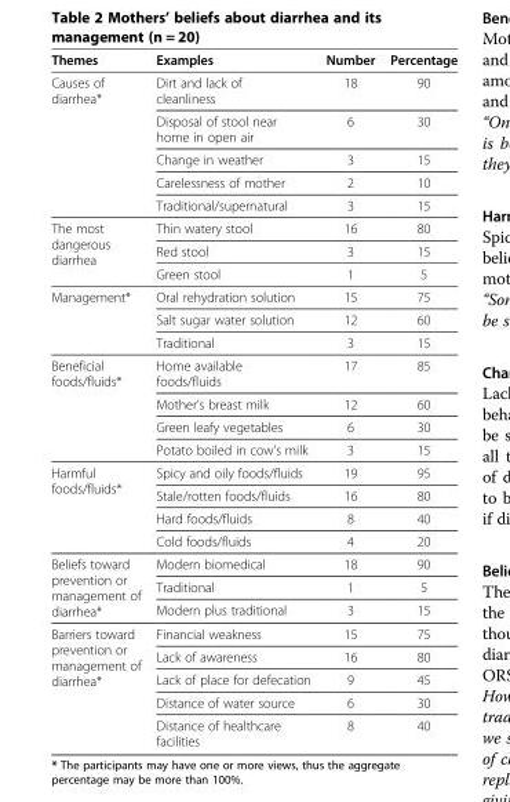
<table><thead><tr><td>Themes</td><td>Examples</td><td>Number</td><td>Percentage</td></tr></thead><tbody><tr><td rowspan="5">Causes of diarrhea*</td><td>Dirt and lack of cleanliness</td><td>18</td><td>90</td></tr><tr><td>Disposal of stool near home in open air</td><td>6</td><td>30</td></tr><tr><td>Change in weather</td><td>3</td><td>15</td></tr><tr><td>Carelessness of mother</td><td>2</td><td>10</td></tr><tr><td>Traditional/supernatural</td><td>3</td><td>15</td></tr><tr><td rowspan="3">The most dangerous diarrhea</td><td>Thin watery stool</td><td>16</td><td>80</td></tr><tr><td>Red stool</td><td>3</td><td>15</td></tr><tr><td>Green stool</td><td>1</td><td>5</td></tr><tr><td rowspan="3">Management*</td><td>Oral rehydration solution</td><td>15</td><td>75</td></tr><tr><td>Salt sugar water solution</td><td>12</td><td>60</td></tr><tr><td>Traditional</td><td>3</td><td>15</td></tr><tr><td rowspan="4">Beneficial foods/fluids*</td><td>Home available foods/fluids</td><td>17</td><td>85</td></tr><tr><td>Mother’s breast milk</td><td>12</td><td>60</td></tr><tr><td>Green leafy vegetables</td><td>6</td><td>30</td></tr><tr><td>Potato boiled in cow’s milk</td><td>3</td><td>15</td></tr><tr><td rowspan="4">Harmful foods/fluids*</td><td>Spicy and oily foods/fluids</td><td>19</td><td>95</td></tr><tr><td>Stale/rotten foods/fluids</td><td>16</td><td>80</td></tr><tr><td>Hard foods/fluids</td><td>8</td><td>40</td></tr><tr><td>Cold foods/fluids</td><td>4</td><td>20</td></tr><tr><td rowspan="3">Beliefs toward prevention or management of diarrhea*</td><td>Modern biomedical</td><td>18</td><td>90</td></tr><tr><td>Traditional</td><td>1</td><td>5</td></tr><tr><td>Modern plus traditional</td><td>3</td><td>15</td></tr><tr><td rowspan="5">Barriers toward prevention or management of diarrhea*</td><td>Financial weakness</td><td>15</td><td>75</td></tr><tr><td>Lack of awareness</td><td>16</td><td>80</td></tr><tr><td>Lack of place for defecation</td><td>9</td><td>45</td></tr><tr><td>Distance of water source</td><td>6</td><td>30</td></tr><tr><td>Distance of healthcare facilities</td><td>8</td><td>40</td></tr></tbody></table>